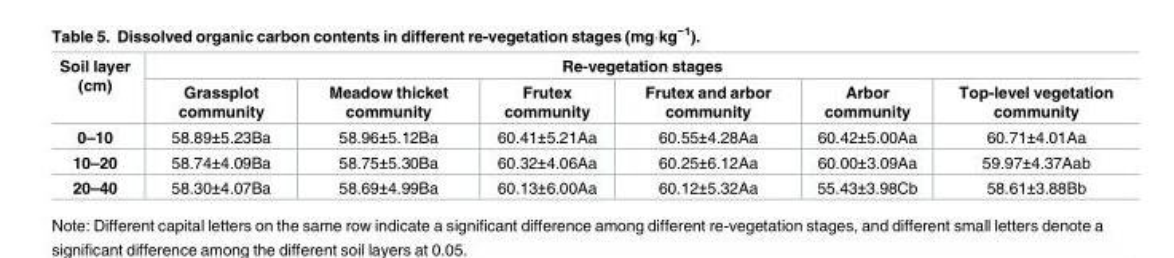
<table><thead><tr><td rowspan="2">Soil layer (cm)</td><td colspan="6">Re-vegetation stages</td></tr><tr><td>Grassplot community</td><td>Meadow thicket community</td><td>Frutex community</td><td>Frutex and arbor community</td><td>Arbor community</td><td>Top-level vegetation community</td></tr></thead><tbody><tr><td>0–10</td><td>58.89±5.23Ba</td><td>58.96±5.12Ba</td><td>60.41±5.21Aa</td><td>60.55±4.28Aa</td><td>60.42±5.00Aa</td><td>60.71±4.01Aa</td></tr><tr><td>10–20</td><td>58.74±4.09Ba</td><td>58.75±5.30Ba</td><td>60.32±4.06Aa</td><td>60.25±6.12Aa</td><td>60.00±3.09Aa</td><td>59.97±4.37Aab</td></tr><tr><td>20–40</td><td>58.30±4.07Ba</td><td>58.69±4.99Ba</td><td>60.13±6.00Aa</td><td>60.12±5.32Aa</td><td>55.43±3.98Cb</td><td>58.61±3.88Bb</td></tr></tbody></table>